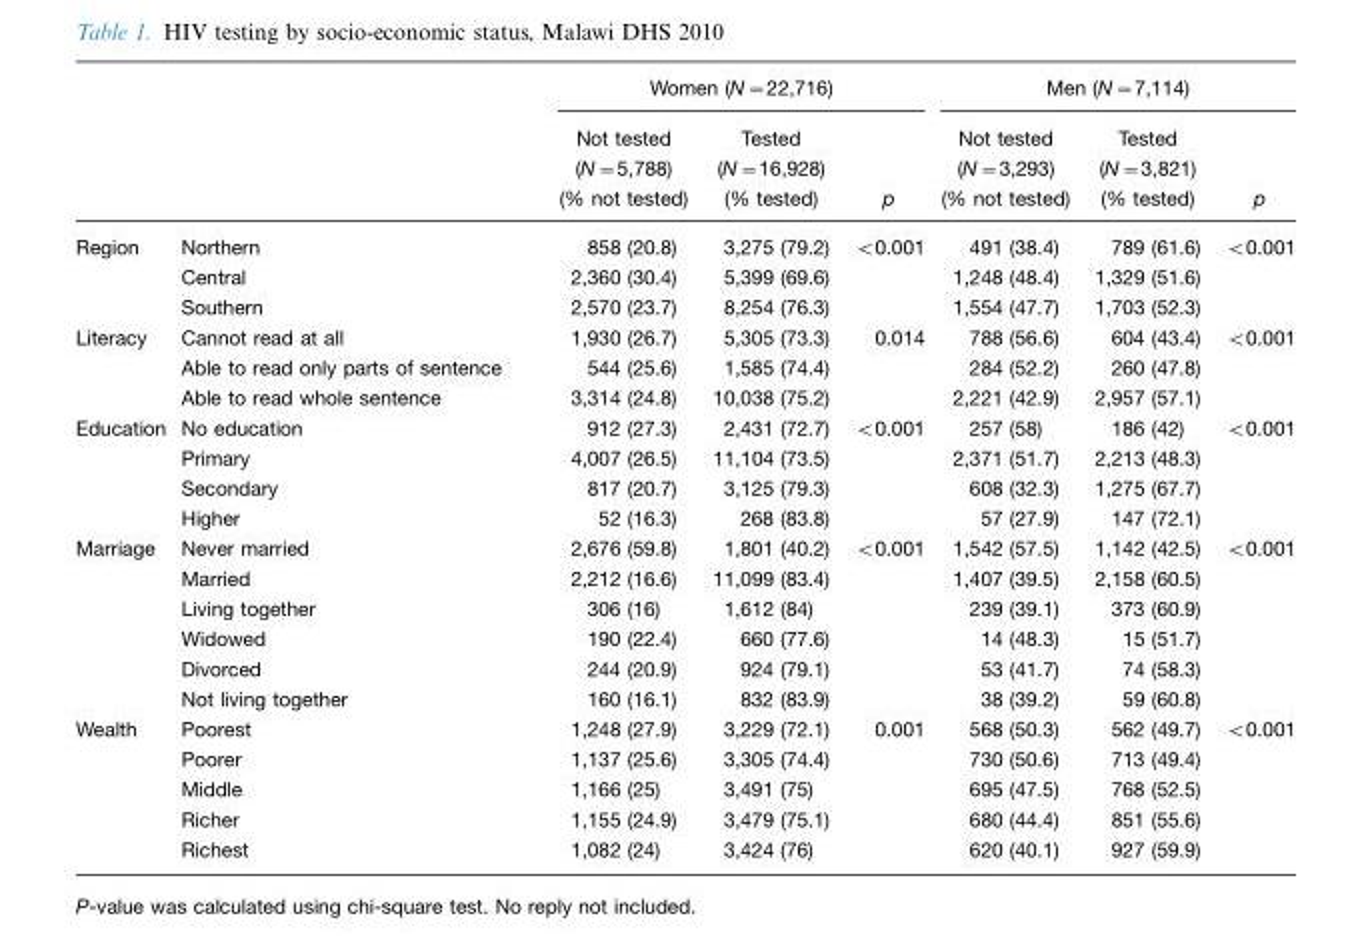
<table><thead><tr><td rowspan="2"></td><td rowspan="2"></td><td colspan="3">Women (N=22,716)</td><td colspan="3">Men (N=7,114)</td></tr><tr><td>Not tested (N=5,788) (% not tested)</td><td>Tested (N=16,928) (% tested)</td><td>p</td><td>Not tested (N=3,293) (% not tested)</td><td>Tested (N=3,821) (% tested)</td><td>p</td></tr></thead><tbody><tr><td rowspan="3">Region</td><td>Northern</td><td>858 (20.8)</td><td>3,275 (79.2)</td><td>&lt;0.001</td><td>491 (38.4)</td><td>789 (61.6)</td><td>&lt;0.001</td></tr><tr><td>Central</td><td>2,360 (30.4)</td><td>5,399 (69.6)</td><td></td><td>1,248 (48.4)</td><td>1,329 (51.6)</td><td></td></tr><tr><td>Southern</td><td>2,570 (23.7)</td><td>8,254 (76.3)</td><td></td><td>1,554 (47.7)</td><td>1,703 (52.3)</td><td></td></tr><tr><td rowspan="3">Literacy</td><td>Cannot read at all</td><td>1,930 (26.7)</td><td>5,305 (73.3)</td><td>0.014</td><td>788 (56.6)</td><td>604 (43.4)</td><td>&lt;0.001</td></tr><tr><td>Able to read only parts of sentence</td><td>544 (25.6)</td><td>1,585 (74.4)</td><td></td><td>284 (52.2)</td><td>260 (47.8)</td><td></td></tr><tr><td>Able to read whole sentence</td><td>3,314 (24.8)</td><td>10,038 (75.2)</td><td></td><td>2,221 (42.9)</td><td>2,957 (57.1)</td><td></td></tr><tr><td rowspan="4">Education</td><td>No education</td><td>912 (27.3)</td><td>2,431 (72.7)</td><td>&lt;0.001</td><td>257 (58)</td><td>186 (42)</td><td>&lt;0.001</td></tr><tr><td>Primary</td><td>4,007 (26.5)</td><td>11,104 (73.5)</td><td></td><td>2,371 (51.7)</td><td>2,213 (48.3)</td><td></td></tr><tr><td>Secondary</td><td>817 (20.7)</td><td>3,125 (79.3)</td><td></td><td>608 (32.3)</td><td>1,275 (67.7)</td><td></td></tr><tr><td>Higher</td><td>52 (16.3)</td><td>268 (83.8)</td><td></td><td>57 (27.9)</td><td>147 (72.1)</td><td></td></tr><tr><td rowspan="6">Marriage</td><td>Never married</td><td>2,676 (59.8)</td><td>1,801 (40.2)</td><td>&lt;0.001</td><td>1,542 (57.5)</td><td>1,142 (42.5)</td><td>&lt;0.001</td></tr><tr><td>Married</td><td>2,212 (16.6)</td><td>11,099 (83.4)</td><td></td><td>1,407 (39.5)</td><td>2,158 (60.5)</td><td></td></tr><tr><td>Living together</td><td>306 (16)</td><td>1,612 (84)</td><td></td><td>239 (39.1)</td><td>373 (60.9)</td><td></td></tr><tr><td>Widowed</td><td>190 (22.4)</td><td>660 (77.6)</td><td></td><td>14 (48.3)</td><td>15 (51.7)</td><td></td></tr><tr><td>Divorced</td><td>244 (20.9)</td><td>924 (79.1)</td><td></td><td>53 (41.7)</td><td>74 (58.3)</td><td></td></tr><tr><td>Not living together</td><td>160 (16.1)</td><td>832 (83.9)</td><td></td><td>38 (39.2)</td><td>59 (60.8)</td><td></td></tr><tr><td rowspan="5">Wealth</td><td>Poorest</td><td>1,248 (27.9)</td><td>3,229 (72.1)</td><td>0.001</td><td>568 (50.3)</td><td>562 (49.7)</td><td>&lt;0.001</td></tr><tr><td>Poorer</td><td>1,137 (25.6)</td><td>3,305 (74.4)</td><td></td><td>730 (50.6)</td><td>713 (49.4)</td><td></td></tr><tr><td>Middle</td><td>1,166 (25)</td><td>3,491 (75)</td><td></td><td>695 (47.5)</td><td>768 (52.5)</td><td></td></tr><tr><td>Richer</td><td>1,155 (24.9)</td><td>3,479 (75.1)</td><td></td><td>680 (44.4)</td><td>851 (55.6)</td><td></td></tr><tr><td>Richest</td><td>1,082 (24)</td><td>3,424 (76)</td><td></td><td>620 (40.1)</td><td>927 (59.9)</td><td></td></tr></tbody></table>